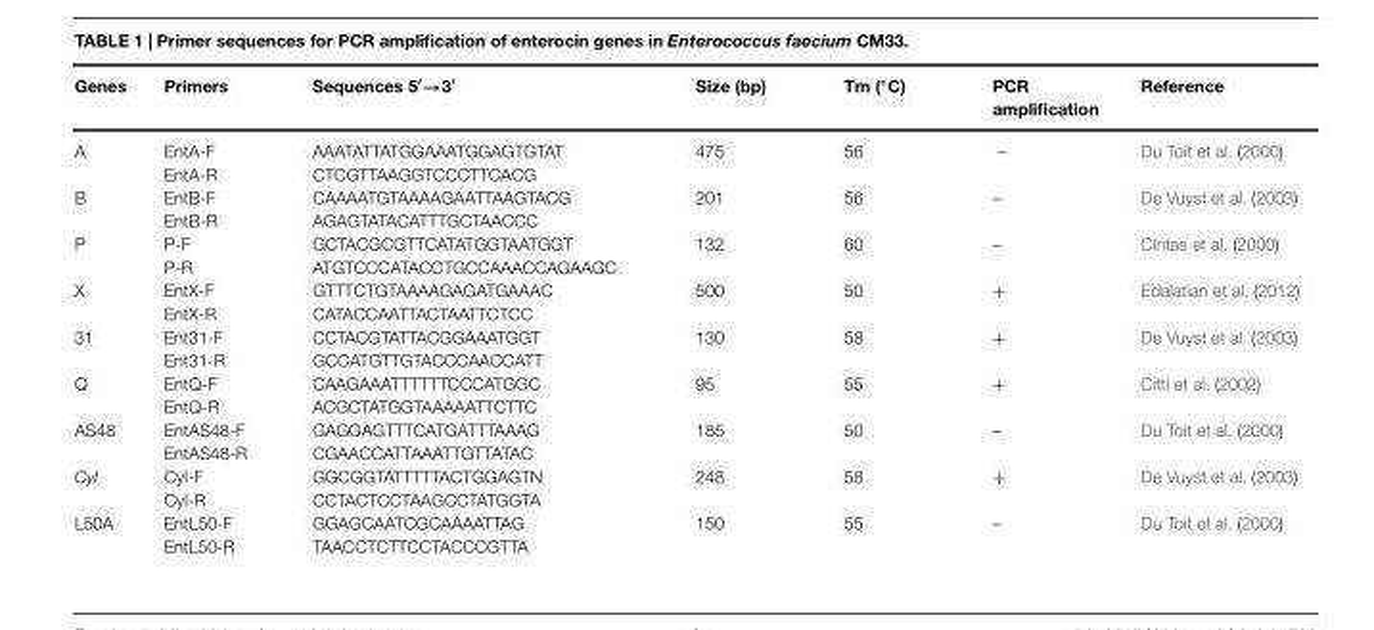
<table><thead><tr><td>Genes</td><td>Primers</td><td>Sequences 5′→3′</td><td>Size (bp)</td><td>Tm (◦C)</td><td>PCR amplification</td><td>Reference</td></tr></thead><tbody><tr><td>A B P X 31 Q AS48 Cyl L50A</td><td>EntA-F EntA-R EntB-F EntB-R P-F P-R EntX-F EntX-R Ent31-F Ent31-R EntQ-F EntQ-R EntAS48-F EntAS48-R Cyl-F Cyl-R EntL50-F EntL50-R</td><td>AAATATTATGGAAATGGAGTGTAT CTCGTTAAGGTCCCTTCACG CAAAATGTAAAAGAATTAAGTACG AGAGTATACATTTGCTAACCC GCTACGCGTTCATATGGTAATGGT ATGTCCCATACCTGCCAAACCAGAAGC GTTTCTGTAAAAGAGATGAAAC CATACCAATTACTAATTCTCC CCTACGTATTACGGAAATGGT GCCATGTTGTACCCAACCATT CAAGAAATTTTTTCCCATGGC ACGCTATGGTAAAAATTCTTC GAGGAGTTTCATGATTTAAAG CGAACCATTAAATTGTTATAC GGCGGTATTTTTACTGGAGTN CCTACTCCTAAGCCTATGGTA GGAGCAATCGCAAAATTAG TAACCTCTTCCTACCCGTTA</td><td>475 201 132 500 130 95 185 248 150</td><td>56 56 60 50 58 55 50 58 55</td><td>– – – + + + – + –</td><td>Du Toit et al. (2000) De Vuyst et al. (2003) Cintas et al. (2000) Edalatian et al. (2012) De Vuyst et al. (2003) Citti et al. (2002) Du Toit et al. (2000) De Vuyst et al. (2003) Du Toit et al. (2000)</td></tr></tbody></table>